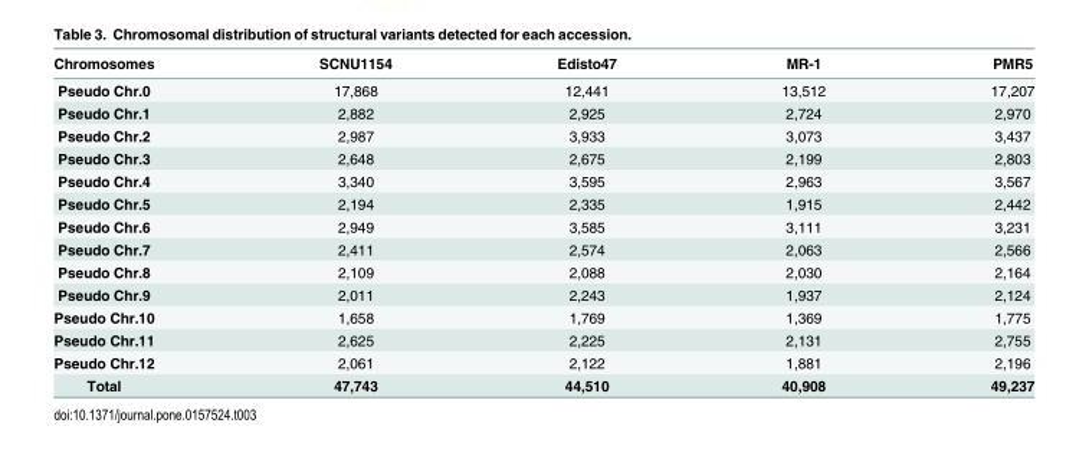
<table><thead><tr><td>Chromosomes</td><td>SCNU1154</td><td>Edisto47</td><td>MR-1</td><td>PMR5</td></tr></thead><tbody><tr><td>Pseudo Chr.0</td><td>17,868</td><td>12,441</td><td>13,512</td><td>17,207</td></tr><tr><td>Pseudo Chr.1</td><td>2,882</td><td>2,925</td><td>2,724</td><td>2,970</td></tr><tr><td>Pseudo Chr.2</td><td>2,987</td><td>3,933</td><td>3,073</td><td>3,437</td></tr><tr><td>Pseudo Chr.3</td><td>2,648</td><td>2,675</td><td>2,199</td><td>2,803</td></tr><tr><td>Pseudo Chr.4</td><td>3,340</td><td>3,595</td><td>2,963</td><td>3,567</td></tr><tr><td>Pseudo Chr.5</td><td>2,194</td><td>2,335</td><td>1,915</td><td>2,442</td></tr><tr><td>Pseudo Chr.6</td><td>2,949</td><td>3,585</td><td>3,111</td><td>3,231</td></tr><tr><td>Pseudo Chr.7</td><td>2,411</td><td>2,574</td><td>2,063</td><td>2,566</td></tr><tr><td>Pseudo Chr.8</td><td>2,109</td><td>2,088</td><td>2,030</td><td>2,164</td></tr><tr><td>Pseudo Chr.9</td><td>2,011</td><td>2,243</td><td>1,937</td><td>2,124</td></tr><tr><td>Pseudo Chr.10</td><td>1,658</td><td>1,769</td><td>1,369</td><td>1,775</td></tr><tr><td>Pseudo Chr.11</td><td>2,625</td><td>2,225</td><td>2,131</td><td>2,755</td></tr><tr><td>Pseudo Chr.12</td><td>2,061</td><td>2,122</td><td>1,881</td><td>2,196</td></tr><tr><td>Total</td><td>47,743</td><td>44,510</td><td>40,908</td><td>49,237</td></tr></tbody></table>